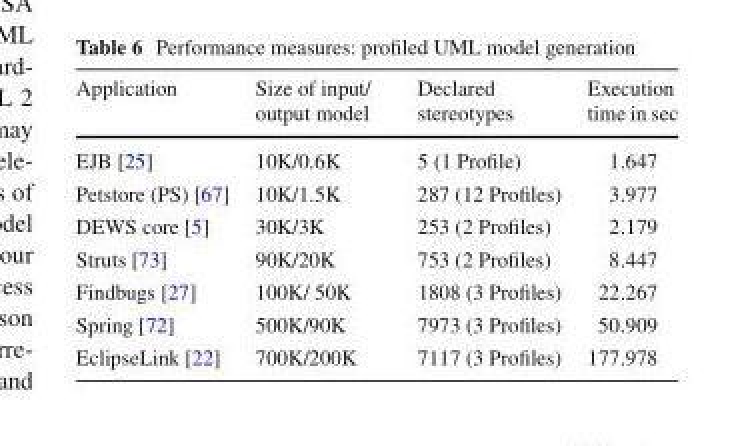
<table><thead><tr><td>Application</td><td>Size of input/ output model</td><td>Declared stereotypes</td><td>Execution time in sec</td></tr></thead><tbody><tr><td>EJB [25]</td><td>10K/0.6K</td><td>5 (1 Profile)</td><td>1.647</td></tr><tr><td>Petstore (PS) [67]</td><td>10K/1.5K</td><td>287 (12 Profiles)</td><td>3.977</td></tr><tr><td>DEWS core [5]</td><td>30K/3K</td><td>253 (2 Profiles)</td><td>2.179</td></tr><tr><td>Struts [73]</td><td>90K/20K</td><td>753 (2 Profiles)</td><td>8.447</td></tr><tr><td>Findbugs [27]</td><td>100K/ 50K</td><td>1808 (3 Profiles)</td><td>22.267</td></tr><tr><td>Spring [72]</td><td>500K/90K</td><td>7973 (3 Profiles)</td><td>50.909</td></tr><tr><td>EclipseLink [22]</td><td>700K/200K</td><td>7117 (3 Profiles)</td><td>177.978</td></tr></tbody></table>